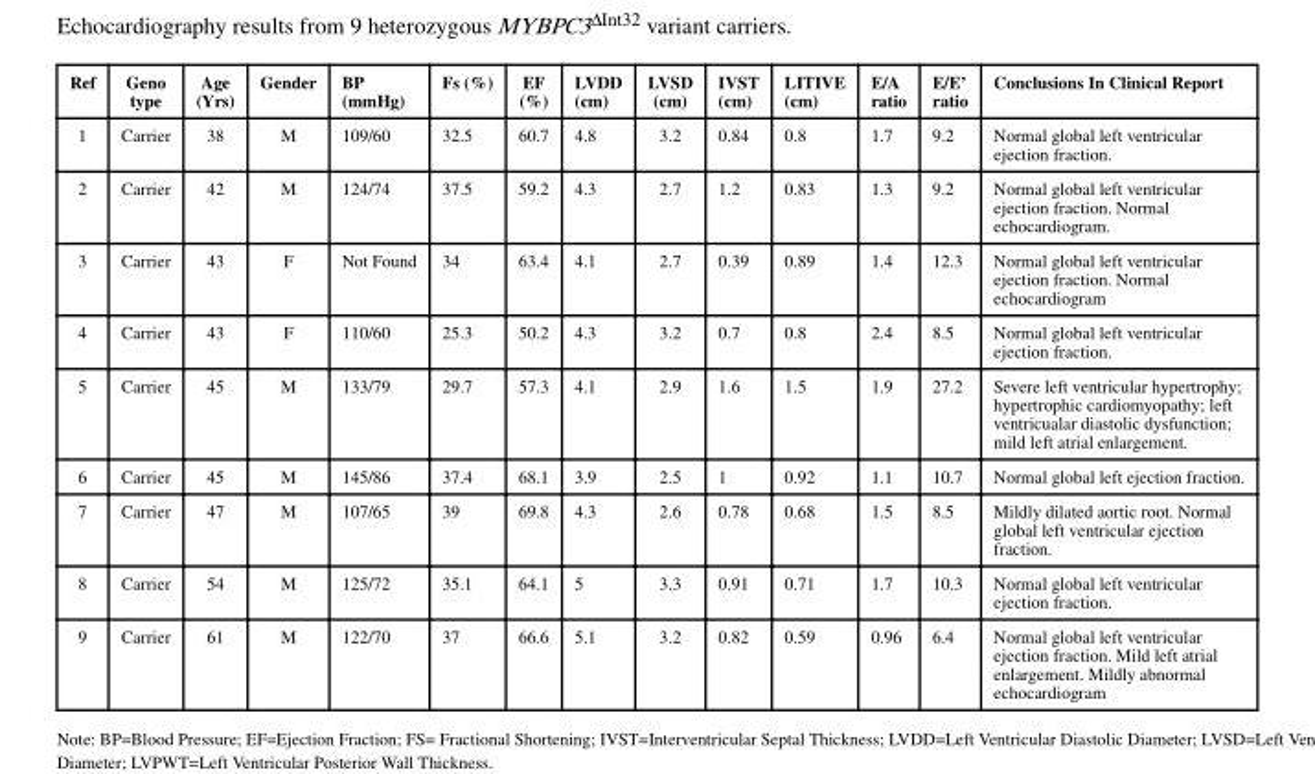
<table><thead><tr><td>Ref</td><td>Geno type</td><td>Age (Yrs)</td><td>Gender</td><td>BP (mmHg)</td><td>Fs (%)</td><td>EF (%)</td><td>LVDD (cm)</td><td>LVSD (cm)</td><td>IVST (cm)</td><td>LITIVE (cm)</td><td>E/A ratio</td><td>E/E’ ratio</td><td>Conclusions In Clinical Report</td></tr></thead><tbody><tr><td>1</td><td>Carrier</td><td>38</td><td>M</td><td>109/60</td><td>32.5</td><td>60.7</td><td>4.8</td><td>3.2</td><td>0.84</td><td>0.8</td><td>1.7</td><td>9.2</td><td>Normal global left ventricular ejection fraction.</td></tr><tr><td>2</td><td>Carrier</td><td>42</td><td>M</td><td>124/74</td><td>37.5</td><td>59.2</td><td>4.3</td><td>2.7</td><td>1.2</td><td>0.83</td><td>1.3</td><td>9.2</td><td>Normal global left ventricular ejection fraction. Normal echocardiogram.</td></tr><tr><td>3</td><td>Carrier</td><td>43</td><td>F</td><td>Not Found</td><td>34</td><td>63.4</td><td>4.1</td><td>2.7</td><td>0.39</td><td>0.89</td><td>1.4</td><td>12.3</td><td>Normal global left ventricular ejection fraction. Normal echocardiogram</td></tr><tr><td>4</td><td>Carrier</td><td>43</td><td>F</td><td>110/60</td><td>25.3</td><td>50.2</td><td>4.3</td><td>3.2</td><td>0.7</td><td>0.8</td><td>2.4</td><td>8.5</td><td>Normal global left ventricular ejection fraction.</td></tr><tr><td>5</td><td>Carrier</td><td>45</td><td>M</td><td>133/79</td><td>29.7</td><td>57.3</td><td>4.1</td><td>2.9</td><td>1.6</td><td>1.5</td><td>1.9</td><td>27.2</td><td>Severe left ventricular hypertrophy; hypertrophic cardiomyopathy; left ventricualar diastolic dysfunction; mild left atrial enlargement.</td></tr><tr><td>6</td><td>Carrier</td><td>45</td><td>M</td><td>145/86</td><td>37.4</td><td>68.1</td><td>3.9</td><td>2.5</td><td>1</td><td>0.92</td><td>1.1</td><td>10.7</td><td>Normal global left ejection fraction.</td></tr><tr><td>7</td><td>Carrier</td><td>47</td><td>M</td><td>107/65</td><td>39</td><td>69.8</td><td>4.3</td><td>2.6</td><td>0.78</td><td>0.68</td><td>1.5</td><td>8.5</td><td>Mildly dilated aortic root. Normal global left ventricular ejection fraction.</td></tr><tr><td>8</td><td>Carrier</td><td>54</td><td>M</td><td>125/72</td><td>35.1</td><td>64.1</td><td>5</td><td>3.3</td><td>0.91</td><td>0.71</td><td>1.7</td><td>10.3</td><td>Normal global left ventricular ejection fraction.</td></tr><tr><td>9</td><td>Carrier</td><td>61</td><td>M</td><td>122/70</td><td>37</td><td>66.6</td><td>5.1</td><td>3.2</td><td>0.82</td><td>0.59</td><td>0.96</td><td>6.4</td><td>Normal global left ventricular ejection fraction. Mild left atrial enlargement. Mildly abnormal echocardiogram</td></tr></tbody></table>